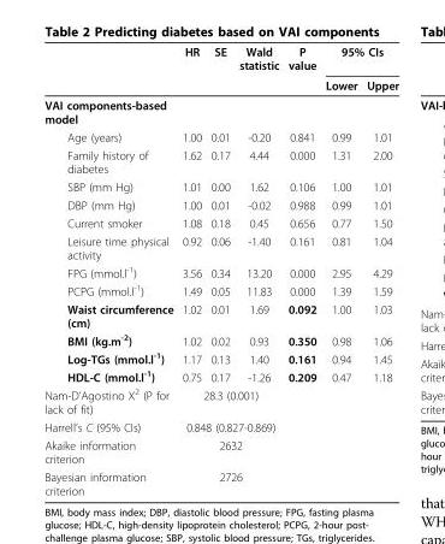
<table><thead><tr><td rowspan="2"></td><td rowspan="2">HR</td><td rowspan="2">SE</td><td rowspan="2">Wald statistic</td><td rowspan="2">P value</td><td colspan="2">95% CIs</td></tr><tr><td>Lower</td><td>Upper</td></tr></thead><tbody><tr><td colspan="7">VAI components-based model</td></tr><tr><td>Age (years)</td><td>1.00</td><td>0.01</td><td>-0.20</td><td>0.841</td><td>0.99</td><td>1.01</td></tr><tr><td>Family history of diabetes</td><td>1.62</td><td>0.17</td><td>4.44</td><td>0.000</td><td>1.31</td><td>2.00</td></tr><tr><td>SBP (mm Hg)</td><td>1.01</td><td>0.00</td><td>1.62</td><td>0.106</td><td>1.00</td><td>1.01</td></tr><tr><td>DBP (mm Hg)</td><td>1.00</td><td>0.01</td><td>-0.02</td><td>0.988</td><td>0.99</td><td>1.01</td></tr><tr><td>Current smoker</td><td>1.08</td><td>0.18</td><td>0.45</td><td>0.656</td><td>0.77</td><td>1.50</td></tr><tr><td>Leisure time physical activity</td><td>0.92</td><td>0.06</td><td>-1.40</td><td>0.161</td><td>0.81</td><td>1.04</td></tr><tr><td>FPG (mmol.l<sup>-1</sup>)</td><td>3.56</td><td>0.34</td><td>13.20</td><td>0.000</td><td>2.95</td><td>4.29</td></tr><tr><td>PCPG (mmol.l<sup>-1</sup>)</td><td>1.49</td><td>0.05</td><td>11.83</td><td>0.000</td><td>1.39</td><td>1.59</td></tr><tr><td>Waist circumference (cm)</td><td>1.02</td><td>0.01</td><td>1.69</td><td>0.092</td><td>1.00</td><td>1.03</td></tr><tr><td>BMI (kg.m<sup>-2</sup>)</td><td>1.02</td><td>0.02</td><td>0.93</td><td>0.350</td><td>0.98</td><td>1.06</td></tr><tr><td>Log-TGs (mmol.l<sup>-1</sup>)</td><td>1.17</td><td>0.13</td><td>1.40</td><td>0.161</td><td>0.94</td><td>1.45</td></tr><tr><td>HDL-C (mmol.l<sup>-1</sup>)</td><td>0.75</td><td>0.17</td><td>-1.26</td><td>0.209</td><td>0.47</td><td>1.18</td></tr><tr><td>Nam-D’Agostino X<sup>2</sup> (P for lack of fit)</td><td colspan="3">28.3 (0.001)</td><td></td><td></td><td></td></tr><tr><td>Harrell’s C (95% CIs)</td><td colspan="3">0.848 (0.827-0.869)</td><td></td><td></td><td></td></tr><tr><td>Akaike information criterion</td><td colspan="3">2632</td><td></td><td></td><td></td></tr><tr><td>Bayesian information criterion</td><td colspan="3">2726</td><td></td><td></td><td></td></tr></tbody></table>